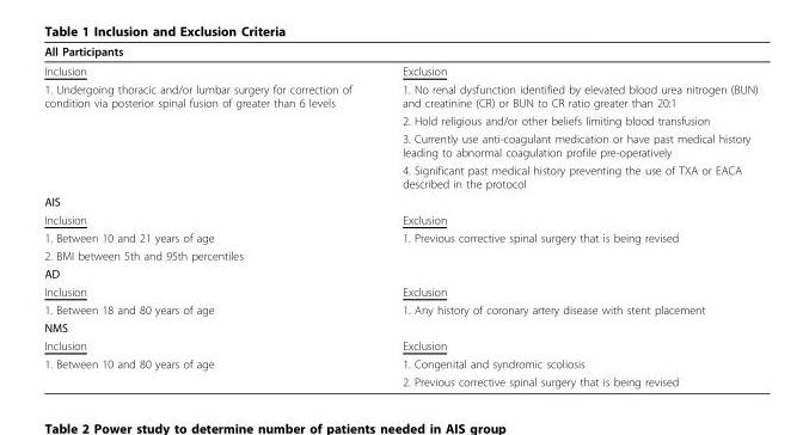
<table><thead><tr><td>All Participants</td><td></td></tr></thead><tbody><tr><td>Inclusion</td><td>Exclusion</td></tr><tr><td rowspan="4">1. Undergoing thoracic and/or lumbar surgery for correction of condition via posterior spinal fusion of greater than 6 levels</td><td>1. No renal dysfunction identified by elevated blood urea nitrogen (BUN) and creatinine (CR) or BUN to CR ratio greater than 20:1</td></tr><tr><td>2. Hold religious and/or other beliefs limiting blood transfusion</td></tr><tr><td>3. Currently use anti-coagulant medication or have past medical history leading to abnormal coagulation profile pre-operatively</td></tr><tr><td>4. Significant past medical history preventing the use of TXA or EACA described in the protocol</td></tr><tr><td colspan="2">AIS</td></tr><tr><td>Inclusion</td><td>Exclusion</td></tr><tr><td>1. Between 10 and 21 years of age</td><td>1. Previous corrective spinal surgery that is being revised</td></tr><tr><td colspan="2">2. BMI between 5th and 95th percentiles</td></tr><tr><td colspan="2">AD</td></tr><tr><td>Inclusion</td><td>Exclusion</td></tr><tr><td>1. Between 18 and 80 years of age</td><td>1. Any history of coronary artery disease with stent placement</td></tr><tr><td colspan="2">NMS</td></tr><tr><td>Inclusion</td><td>Exclusion</td></tr><tr><td rowspan="2">1. Between 10 and 80 years of age</td><td>1. Congenital and syndromic scoliosis</td></tr><tr><td>2. Previous corrective spinal surgery that is being revised</td></tr></tbody></table>